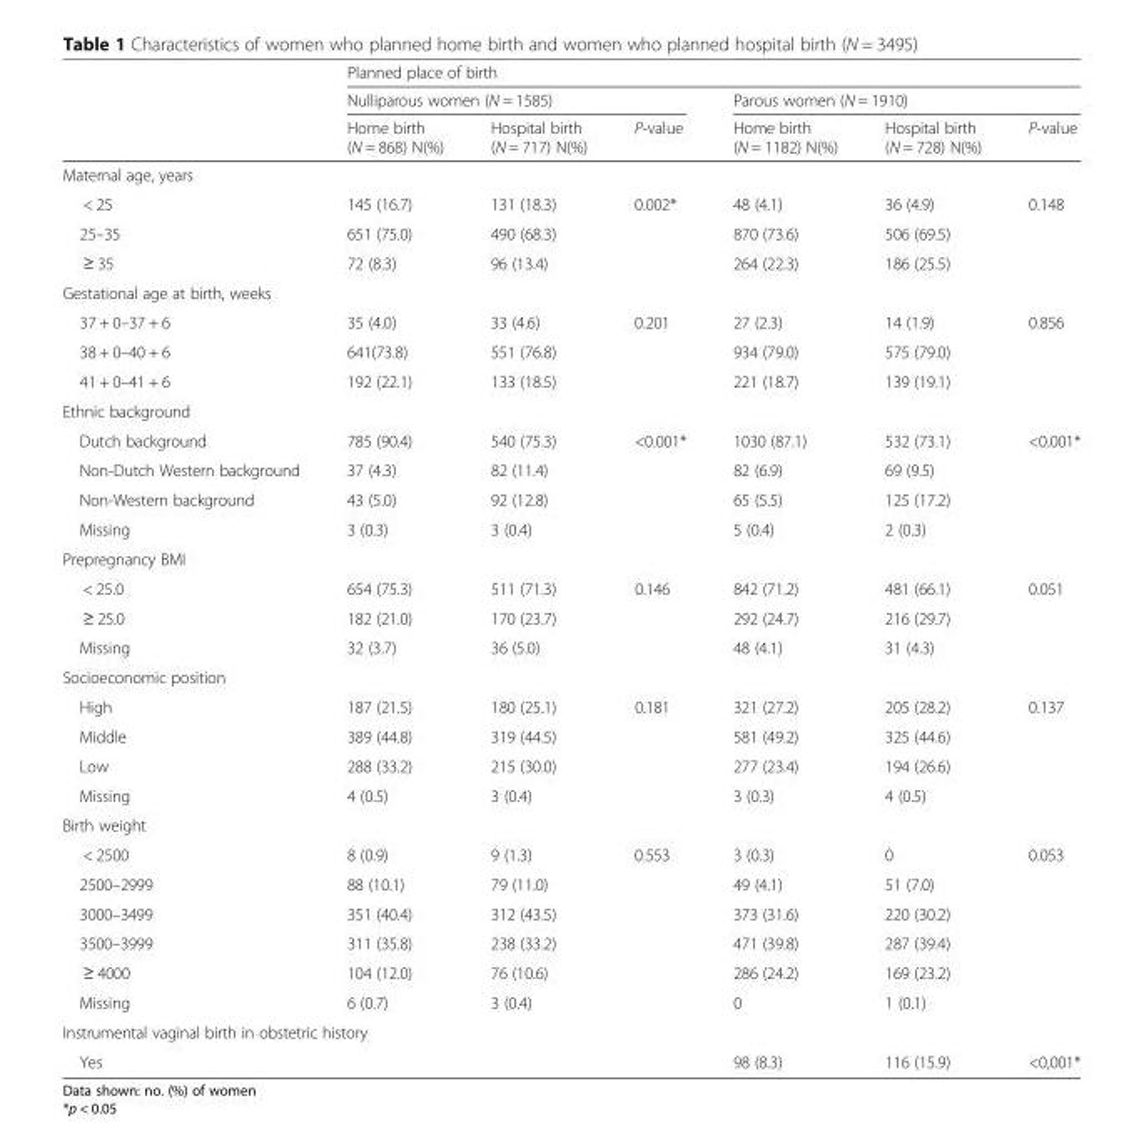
<table><thead><tr><td rowspan="3"></td><td colspan="6">Planned place of birth</td></tr><tr><td colspan="3">Nulliparous women (N = 1585)</td><td colspan="3">Parous women (N = 1910)</td></tr><tr><td>Home birth (N = 868) N(%)</td><td>Hospital birth (N = 717) N(%)</td><td>P-value</td><td>Home birth (N = 1182) N(%)</td><td>Hospital birth (N = 728) N(%)</td><td>P-value</td></tr></thead><tbody><tr><td colspan="7">Maternal age, years</td></tr><tr><td>&lt; 25</td><td>145 (16.7)</td><td>131 (18.3)</td><td>0.002*</td><td>48 (4.1)</td><td>36 (4.9)</td><td>0.148</td></tr><tr><td>25–35</td><td>651 (75.0)</td><td>490 (68.3)</td><td></td><td>870 (73.6)</td><td>506 (69.5)</td><td></td></tr><tr><td>≥ 35</td><td>72 (8.3)</td><td>96 (13.4)</td><td></td><td>264 (22.3)</td><td>186 (25.5)</td><td></td></tr><tr><td colspan="7">Gestational age at birth, weeks</td></tr><tr><td>37 + 0–37 + 6</td><td>35 (4.0)</td><td>33 (4.6)</td><td>0.201</td><td>27 (2.3)</td><td>14 (1.9)</td><td>0.856</td></tr><tr><td>38 + 0–40 + 6</td><td>641(73.8)</td><td>551 (76.8)</td><td></td><td>934 (79.0)</td><td>575 (79.0)</td><td rowspan="2"></td></tr><tr><td>41 + 0–41 + 6</td><td>192 (22.1)</td><td>133 (18.5)</td><td></td><td>221 (18.7)</td><td>139 (19.1)</td></tr><tr><td colspan="7">Ethnic background</td></tr><tr><td>Dutch background</td><td>785 (90.4)</td><td>540 (75.3)</td><td>&lt;0.001*</td><td>1030 (87.1)</td><td>532 (73.1)</td><td>&lt;0.001*</td></tr><tr><td>Non-Dutch Western background</td><td>37 (4.3)</td><td>82 (11.4)</td><td></td><td>82 (6.9)</td><td>69 (9.5)</td><td></td></tr><tr><td>Non-Western background</td><td>43 (5.0)</td><td>92 (12.8)</td><td></td><td>65 (5.5)</td><td>125 (17.2)</td><td></td></tr><tr><td>Missing</td><td>3 (0.3)</td><td>3 (0.4)</td><td></td><td>5 (0.4)</td><td>2 (0.3)</td><td></td></tr><tr><td colspan="7">Prepregnancy BMI</td></tr><tr><td>&lt; 25.0</td><td>654 (75.3)</td><td>511 (71.3)</td><td>0.146</td><td>842 (71.2)</td><td>481 (66.1)</td><td>0.051</td></tr><tr><td>≥ 25.0</td><td>182 (21.0)</td><td>170 (23.7)</td><td></td><td>292 (24.7)</td><td>216 (29.7)</td><td></td></tr><tr><td>Missing</td><td>32 (3.7)</td><td>36 (5.0)</td><td></td><td>48 (4.1)</td><td>31 (4.3)</td><td></td></tr><tr><td colspan="7">Socioeconomic position</td></tr><tr><td>High</td><td>187 (21.5)</td><td>180 (25.1)</td><td>0.181</td><td>321 (27.2)</td><td>205 (28.2)</td><td>0.137</td></tr><tr><td>Middle</td><td>389 (44.8)</td><td>319 (44.5)</td><td></td><td>581 (49.2)</td><td>325 (44.6)</td><td></td></tr><tr><td>Low</td><td>288 (33.2)</td><td>215 (30.0)</td><td></td><td>277 (23.4)</td><td>194 (26.6)</td><td></td></tr><tr><td>Missing</td><td>4 (0.5)</td><td>3 (0.4)</td><td></td><td>3 (0.3)</td><td>4 (0.5)</td><td></td></tr><tr><td colspan="7">Birth weight</td></tr><tr><td>&lt; 2500</td><td>8 (0.9)</td><td>9 (1.3)</td><td>0.553</td><td>3 (0.3)</td><td>0</td><td>0.053</td></tr><tr><td>2500–2999</td><td>88 (10.1)</td><td>79 (11.0)</td><td></td><td>49 (4.1)</td><td>51 (7.0)</td><td></td></tr><tr><td>3000–3499</td><td>351 (40.4)</td><td>312 (43.5)</td><td></td><td>373 (31.6)</td><td>220 (30.2)</td><td></td></tr><tr><td>3500–3999</td><td>311 (35.8)</td><td>238 (33.2)</td><td></td><td>471 (39.8)</td><td>287 (39.4)</td><td></td></tr><tr><td>≥ 4000</td><td>104 (12.0)</td><td>76 (10.6)</td><td></td><td>286 (24.2)</td><td>169 (23.2)</td><td></td></tr><tr><td>Missing</td><td>6 (0.7)</td><td>3 (0.4)</td><td></td><td>0</td><td>1 (0.1)</td><td></td></tr><tr><td colspan="7">Instrumental vaginal birth in obstetric history</td></tr><tr><td>Yes</td><td></td><td></td><td></td><td>98 (8.3)</td><td>116 (15.9)</td><td>&lt;0,001*</td></tr></tbody></table>